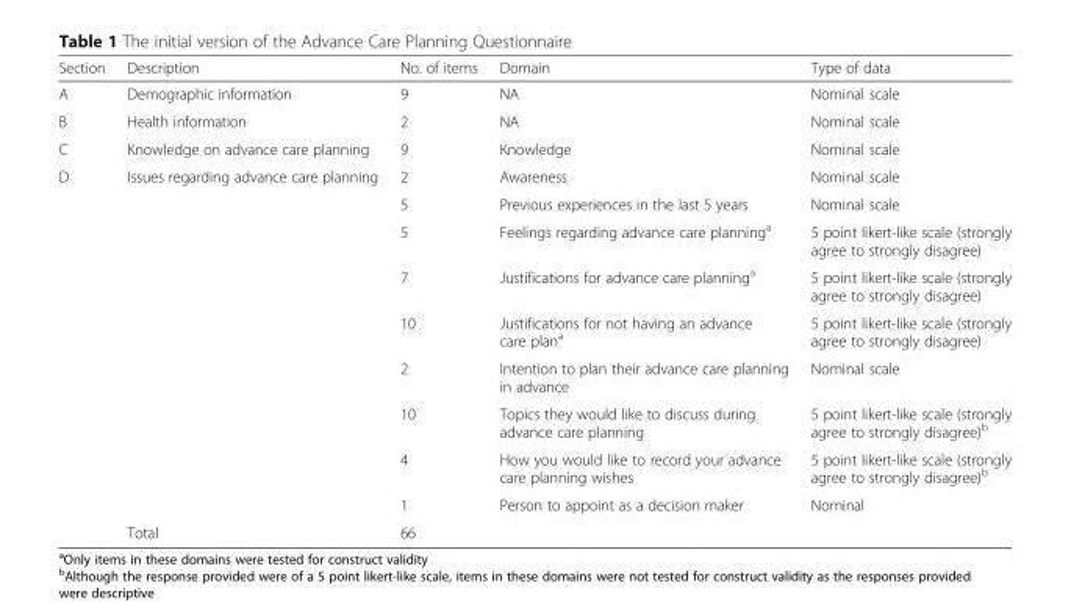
<table><thead><tr><td>Section</td><td>Description</td><td>No. of items</td><td>Domain</td><td>Type of data</td></tr></thead><tbody><tr><td>A</td><td>Demographic information</td><td>9</td><td>NA</td><td>Nominal scale</td></tr><tr><td>B</td><td>Health information</td><td>2</td><td>NA</td><td>Nominal scale</td></tr><tr><td>C</td><td>Knowledge on advance care planning</td><td>9</td><td>Knowledge</td><td>Nominal scale</td></tr><tr><td rowspan="10">D</td><td rowspan="9">Issues regarding advance care planning</td><td>2</td><td>Awareness</td><td>Nominal scale</td></tr><tr><td>5</td><td>Previous experiences in the last 5 years</td><td>Nominal scale</td></tr><tr><td>5</td><td>Feelings regarding advance care planning<sup>a</sup></td><td>5 point likert-like scale (strongly agree to strongly disagree)</td></tr><tr><td>7</td><td>Justifications for advance care planning<sup>a</sup></td><td>5 point likert-like scale (strongly agree to strongly disagree)</td></tr><tr><td>10</td><td>Justifications for not having an advance care plan<sup>a</sup></td><td>5 point likert-like scale (strongly agree to strongly disagree)</td></tr><tr><td>2</td><td>Intention to plan their advance care planning in advance</td><td>Nominal scale</td></tr><tr><td>10</td><td>Topics they would like to discuss during advance care planning</td><td>5 point likert-like scale (strongly agree to strongly disagree)<sup>b</sup></td></tr><tr><td>4</td><td>How you would like to record your advance care planning wishes</td><td>5 point likert-like scale (strongly agree to strongly disagree)<sup>b</sup></td></tr><tr><td>1</td><td>Person to appoint as a decision maker</td><td>Nominal</td></tr><tr><td>Total</td><td>66</td><td></td><td></td></tr></tbody></table>